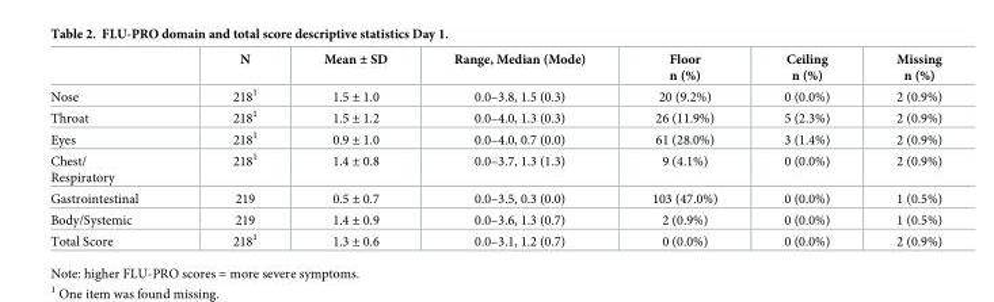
<table><thead><tr><td></td><td>N</td><td>Mean ± SD</td><td>Range, Median (Mode)</td><td>Floor n (%)</td><td>Ceiling n (%)</td><td>Missing n (%)</td></tr></thead><tbody><tr><td>Nose</td><td>218<sup>1</sup></td><td>1.5 ± 1.0</td><td>0.0–3.8, 1.5 (0.3)</td><td>20 (9.2%)</td><td>0 (0.0%)</td><td>2 (0.9%)</td></tr><tr><td>Throat</td><td>218<sup>1</sup></td><td>1.5 ± 1.2</td><td>0.0–4.0, 1.3 (0.3)</td><td>26 (11.9%)</td><td>5 (2.3%)</td><td>2 (0.9%)</td></tr><tr><td>Eyes</td><td>218<sup>1</sup></td><td>0.9 ± 1.0</td><td>0.0–4.0, 0.7 (0.0)</td><td>61 (28.0%)</td><td>3 (1.4%)</td><td>2 (0.9%)</td></tr><tr><td>Chest/ Respiratory</td><td>218<sup>1</sup></td><td>1.4 ± 0.8</td><td>0.0–3.7, 1.3 (1.3)</td><td>9 (4.1%)</td><td>0 (0.0%)</td><td>2 (0.9%)</td></tr><tr><td>Gastrointestinal</td><td>219</td><td>0.5 ± 0.7</td><td>0.0–3.5, 0.3 (0.0)</td><td>103 (47.0%)</td><td>0 (0.0%)</td><td>1 (0.5%)</td></tr><tr><td>Body/Systemic</td><td>219</td><td>1.4 ± 0.9</td><td>0.0–3.6, 1.3 (0.7)</td><td>2 (0.9%)</td><td>0 (0.0%)</td><td>1 (0.5%)</td></tr><tr><td>Total Score</td><td>218<sup>1</sup></td><td>1.3 ± 0.6</td><td>0.0–3.1, 1.2 (0.7)</td><td>0 (0.0%)</td><td>0 (0.0%)</td><td>2 (0.9%)</td></tr></tbody></table>